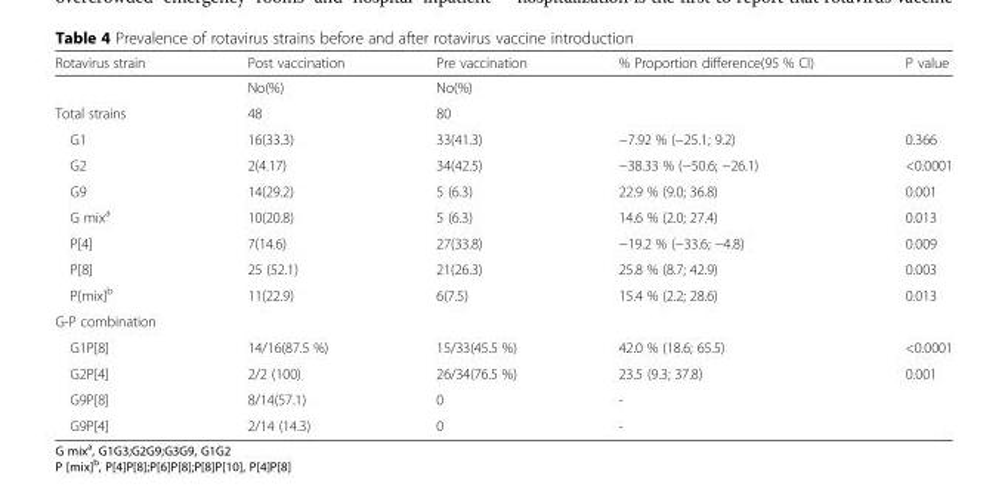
<table><thead><tr><td>Rotavirus strain</td><td>Post vaccination</td><td>Pre vaccination</td><td>% Proportion difference(95 % CI)</td><td>P value</td></tr></thead><tbody><tr><td></td><td>No(%)</td><td>No(%)</td><td></td><td></td></tr><tr><td>Total strains</td><td>48</td><td>80</td><td></td><td></td></tr><tr><td>G1</td><td>16(33.3)</td><td>33(41.3)</td><td>−7.92 % (−25.1; 9.2)</td><td>0.366</td></tr><tr><td>G2</td><td>2(4.17)</td><td>34(42.5)</td><td>−38.33 % (−50.6; −26.1)</td><td>&lt;0.0001</td></tr><tr><td>G9</td><td>14(29.2)</td><td>5 (6.3)</td><td>22.9 % (9.0; 36.8)</td><td>0.001</td></tr><tr><td>G mix<sup>a</sup></td><td>10(20.8)</td><td>5 (6.3)</td><td>14.6 % (2.0; 27.4)</td><td>0.013</td></tr><tr><td>P[4]</td><td>7(14.6)</td><td>27(33.8)</td><td>−19.2 % (−33.6; −4.8)</td><td>0.009</td></tr><tr><td>P[8]</td><td>25 (52.1)</td><td>21(26.3)</td><td>25.8 % (8.7; 42.9)</td><td>0.003</td></tr><tr><td>P{mix]<sup>b</sup></td><td>11(22.9)</td><td>6(7.5)</td><td>15.4 % (2.2; 28.6)</td><td>0.013</td></tr><tr><td colspan="5">G-P combination</td></tr><tr><td>G1P[8]</td><td>14/16(87.5 %)</td><td>15/33(45.5 %)</td><td>42.0 % (18.6; 65.5)</td><td>&lt;0.0001</td></tr><tr><td>G2P[4]</td><td>2/2 (100)</td><td>26/34(76.5 %)</td><td>23.5 (9.3; 37.8)</td><td>0.001</td></tr><tr><td>G9P[8]</td><td>8/14(57.1)</td><td>0</td><td>-</td><td></td></tr><tr><td>G9P[4]</td><td>2/14 (14.3)</td><td>0</td><td>-</td><td></td></tr></tbody></table>